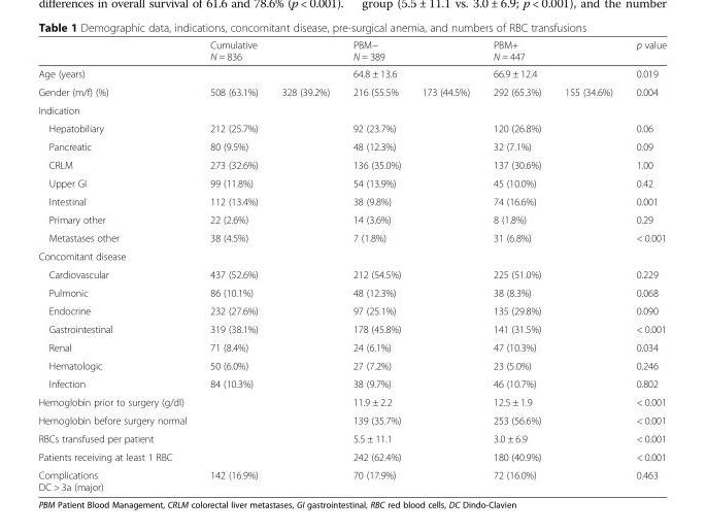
<table><thead><tr><td rowspan="3">Age (years) Gender (m/f) (%)</td><td rowspan="2" colspan="2">Cumulative N = 836</td><td rowspan="2" colspan="2">PBM− N = 389 64.8 ± 13.6</td><td rowspan="2" colspan="2">PBM+ N = 447 66.9 ± 12.4</td><td rowspan="3">p value 0.019 0.004</td></tr><tr></tr><tr><td>508 (63.1%)</td><td>328 (39.2%)</td><td>216 (55.5%</td><td>173 (44.5%)</td><td>292 (65.3%)</td><td>155 (34.6%)</td></tr></thead><tbody><tr><td colspan="8">Indication</td></tr><tr><td>Hepatobiliary</td><td colspan="2">212 (25.7%)</td><td colspan="2">92 (23.7%)</td><td colspan="2">120 (26.8%)</td><td>0.06</td></tr><tr><td>Pancreatic</td><td colspan="2">80 (9.5%)</td><td colspan="2">48 (12.3%)</td><td colspan="2">32 (7.1%)</td><td>0.09</td></tr><tr><td>CRLM</td><td colspan="2">273 (32.6%)</td><td colspan="2">136 (35.0%)</td><td colspan="2">137 (30.6%)</td><td>1.00</td></tr><tr><td>Upper GI</td><td colspan="2">99 (11.8%)</td><td colspan="2">54 (13.9%)</td><td colspan="2">45 (10.0%)</td><td>0.42</td></tr><tr><td>Intestinal</td><td colspan="2">112 (13.4%)</td><td colspan="2">38 (9.8%)</td><td colspan="2">74 (16.6%)</td><td>0.001</td></tr><tr><td>Primary other</td><td colspan="2">22 (2.6%)</td><td colspan="2">14 (3.6%)</td><td colspan="2">8 (1.8%)</td><td>0.29</td></tr><tr><td>Metastases other</td><td colspan="2">38 (4.5%)</td><td colspan="2">7 (1.8%)</td><td colspan="2">31 (6.8%)</td><td>&lt; 0.001</td></tr><tr><td colspan="8">Concomitant disease</td></tr><tr><td>Cardiovascular</td><td colspan="2">437 (52.6%)</td><td colspan="2">212 (54.5%)</td><td colspan="2">225 (51.0%)</td><td>0.229</td></tr><tr><td>Pulmonic</td><td colspan="2">86 (10.1%)</td><td colspan="2">48 (12.3%)</td><td colspan="2">38 (8.3%)</td><td>0.068</td></tr><tr><td>Endocrine</td><td colspan="2">232 (27.6%)</td><td colspan="2">97 (25.1%)</td><td colspan="2">135 (29.8%)</td><td>0.090</td></tr><tr><td>Gastrointestinal</td><td colspan="2">319 (38.1%)</td><td colspan="2">178 (45.8%)</td><td colspan="2">141 (31.5%)</td><td>&lt; 0.001</td></tr><tr><td>Renal</td><td colspan="2">71 (8.4%)</td><td colspan="2">24 (6.1%)</td><td colspan="2">47 (10.3%)</td><td>0.034</td></tr><tr><td>Hematologic</td><td colspan="2">50 (6.0%)</td><td colspan="2">27 (7.2%)</td><td colspan="2">23 (5.0%)</td><td>0.246</td></tr><tr><td>Infection</td><td colspan="2">84 (10.3%)</td><td colspan="2">38 (9.7%)</td><td colspan="2">46 (10.7%)</td><td>0.802</td></tr><tr><td>Hemoglobin prior to surgery (g/dl)</td><td colspan="2"></td><td colspan="2">11.9 ± 2.2</td><td colspan="2">12.5 ± 1.9</td><td>&lt; 0.001</td></tr><tr><td>Hemoglobin before surgery normal</td><td colspan="2"></td><td colspan="2">139 (35.7%)</td><td colspan="2">253 (56.6%)</td><td>&lt; 0.001</td></tr><tr><td>RBCs transfused per patient</td><td colspan="2"></td><td colspan="2">5.5 ± 11.1</td><td colspan="2">3.0 ± 6.9</td><td>&lt; 0.001</td></tr><tr><td>Patients receiving at least 1 RBC</td><td colspan="2"></td><td colspan="2">242 (62.4%)</td><td colspan="2">180 (40.9%)</td><td>&lt; 0.001</td></tr><tr><td>Complications DC &gt; 3a (major)</td><td colspan="2">142 (16.9%)</td><td colspan="2">70 (17.9%)</td><td colspan="2">72 (16.0%)</td><td>0.463</td></tr></tbody></table>